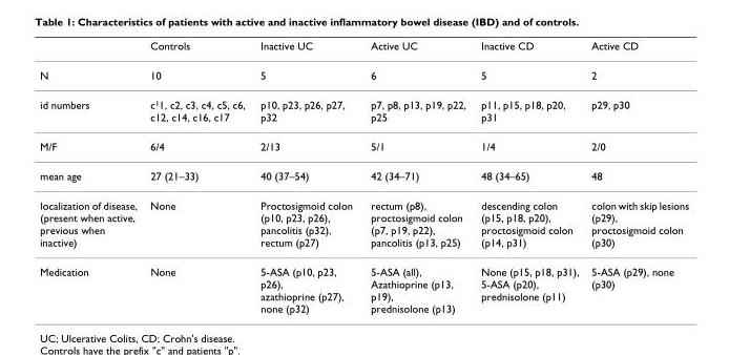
<table><thead><tr><td></td><td>Controls</td><td>Inactive UC</td><td>Active UC</td><td>Inactive CD</td><td>Active CD</td></tr></thead><tbody><tr><td>N</td><td>10</td><td>5</td><td>6</td><td>5</td><td>2</td></tr><tr><td>id numbers</td><td>c<sup>1</sup>1, c2, c3, c4, c5, c6, c12, c14, c16, c17</td><td>p10, p23, p26, p27, p32</td><td>p7, p8, p13, p19, p22, p25</td><td>p11, p15, p18, p20, p31</td><td>p29, p30</td></tr><tr><td>M/F</td><td>6/4</td><td>2/13</td><td>5/1</td><td>1/4</td><td>2/0</td></tr><tr><td>mean age</td><td>27 (21–33)</td><td>40 (37–54)</td><td>42 (34–71)</td><td>48 (34–65)</td><td>48</td></tr><tr><td>localization of disease, (present when active, previous when inactive)</td><td>None</td><td>Proctosigmoid colon (p10, p23, p26), pancolitis (p32), rectum (p27)</td><td>rectum (p8), proctosigmoid colon (p7, p19, p22), pancolitis (p13, p25)</td><td>descending colon (p15, p18, p20), proctosigmoid colon (p14, p31)</td><td>colon with skip lesions (p29), proctosigmoid colon (p30)</td></tr><tr><td>Medication</td><td>None</td><td>5-ASA (p10, p23, p26), azathioprine (p27), none (p32)</td><td>5-ASA (all), Azathioprine (p13, p19), prednisolone (p13)</td><td>None (p15, p18, p31), 5-ASA (p20), prednisolone (p11)</td><td>5-ASA (p29), none (p30)</td></tr></tbody></table>